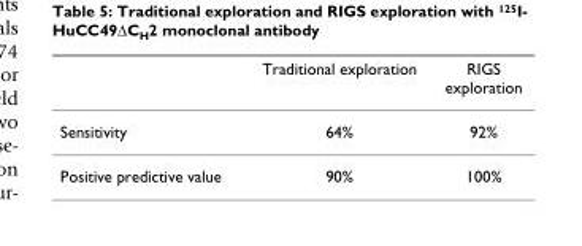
<table><thead><tr><td></td><td>Traditional exploration</td><td>RIGS exploration</td></tr></thead><tbody><tr><td>Sensitivity</td><td>64%</td><td>92%</td></tr><tr><td>Positive predictive value</td><td>90%</td><td>100%</td></tr></tbody></table>